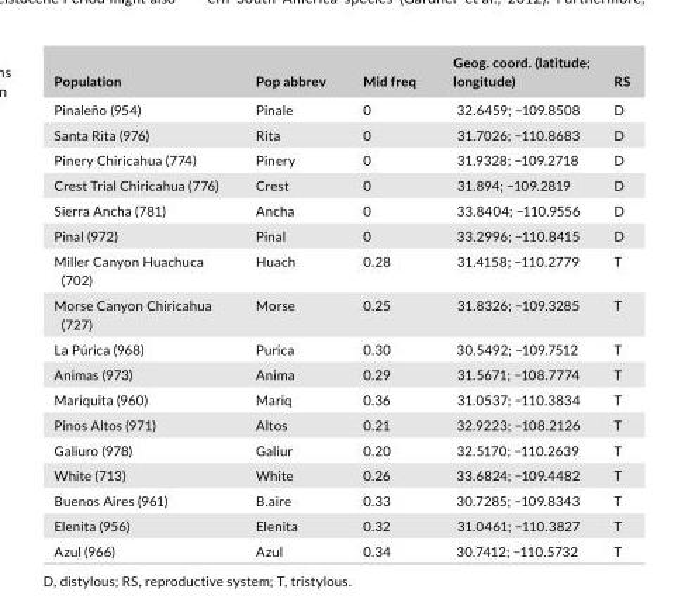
<table><thead><tr><td>Population</td><td>Pop abbrev</td><td>Mid freq</td><td>Geog. coord. (latitude; longitude)</td><td>RS</td></tr></thead><tbody><tr><td>Pinaleño (954)</td><td>Pinale</td><td>0</td><td>32.6459; −109.8508</td><td>D</td></tr><tr><td>Santa Rita (976)</td><td>Rita</td><td>0</td><td>31.7026; −110.8683</td><td>D</td></tr><tr><td>Pinery Chiricahua (774)</td><td>Pinery</td><td>0</td><td>31.9328; −109.2718</td><td>D</td></tr><tr><td>Crest Trial Chiricahua (776)</td><td>Crest</td><td>0</td><td>31.894; −109.2819</td><td>D</td></tr><tr><td>Sierra Ancha (781)</td><td>Ancha</td><td>0</td><td>33.8404; −110.9556</td><td>D</td></tr><tr><td>Pinal (972)</td><td>Pinal</td><td>0</td><td>33.2996; −110.8415</td><td>D</td></tr><tr><td>Miller Canyon Huachuca (702)</td><td>Huach</td><td>0.28</td><td>31.4158; −110.2779</td><td>T</td></tr><tr><td>Morse Canyon Chiricahua (727)</td><td>Morse</td><td>0.25</td><td>31.8326; −109.3285</td><td>T</td></tr><tr><td>La Púrica (968)</td><td>Purica</td><td>0.30</td><td>30.5492; −109.7512</td><td>T</td></tr><tr><td>Animas (973)</td><td>Anima</td><td>0.29</td><td>31.5671; −108.7774</td><td>T</td></tr><tr><td>Mariquita (960)</td><td>Mariq</td><td>0.36</td><td>31.0537; −110.3834</td><td>T</td></tr><tr><td>Pinos Altos (971)</td><td>Altos</td><td>0.21</td><td>32.9223; −108.2126</td><td>T</td></tr><tr><td>Galiuro (978)</td><td>Galiur</td><td>0.20</td><td>32.5170; −110.2639</td><td>T</td></tr><tr><td>White (713)</td><td>White</td><td>0.26</td><td>33.6824; −109.4482</td><td>T</td></tr><tr><td>Buenos Aires (961)</td><td>B.aire</td><td>0.33</td><td>30.7285; −109.8343</td><td>T</td></tr><tr><td>Elenita (956)</td><td>Elenita</td><td>0.32</td><td>31.0461; −110.3827</td><td>T</td></tr><tr><td>Azul (966)</td><td>Azul</td><td>0.34</td><td>30.7412; −110.5732</td><td>T</td></tr></tbody></table>